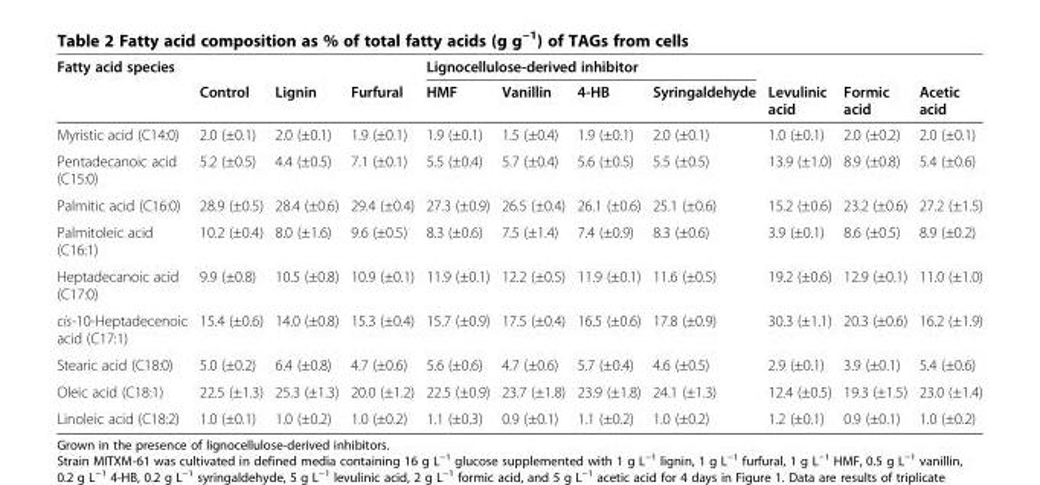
<table><thead><tr><td rowspan="2">Fatty acid species</td><td rowspan="2">Control</td><td rowspan="2">Lignin</td><td rowspan="2">Furfural</td><td colspan="4">Lignocellulose-derived inhibitor</td><td rowspan="2">Levulinic acid</td><td rowspan="2">Formic acid</td><td rowspan="2">Acetic acid</td></tr><tr><td>HMF</td><td>Vanillin</td><td>4-HB</td><td>Syringaldehyde</td></tr></thead><tbody><tr><td>Myristic acid (C14:0)</td><td>2.0 (±0.1)</td><td>2.0 (±0.1)</td><td>1.9 (±0.1)</td><td>1.9 (±0.1)</td><td>1.5 (±0.4)</td><td>1.9 (±0.1)</td><td>2.0 (±0.1)</td><td>1.0 (±0.1)</td><td>2.0 (±0.2)</td><td>2.0 (±0.1)</td></tr><tr><td>Pentadecanoic acid (C15:0)</td><td>5.2 (±0.5)</td><td>4.4 (±0.5)</td><td>7.1 (±0.1)</td><td>5.5 (±0.4)</td><td>5.7 (±0.4)</td><td>5.6 (±0.5)</td><td>5.5 (±0.5)</td><td>13.9 (±1.0)</td><td>8.9 (±0.8)</td><td>5.4 (±0.6)</td></tr><tr><td>Palmitic acid (C16:0)</td><td>28.9 (±0.5)</td><td>28.4 (±0.6)</td><td>29.4 (±0.4)</td><td>27.3 (±0.9)</td><td>26.5 (±0.4)</td><td>26.1 (±0.6)</td><td>25.1 (±0.6)</td><td>15.2 (±0.6)</td><td>23.2 (±0.6)</td><td>27.2 (±1.5)</td></tr><tr><td>Palmitoleic acid (C16:1)</td><td>10.2 (±0.4)</td><td>8.0 (±1.6)</td><td>9.6 (±0.5)</td><td>8.3 (±0.6)</td><td>7.5 (±1.4)</td><td>7.4 (±0.9)</td><td>8.3 (±0.6)</td><td>3.9 (±0.1)</td><td>8.6 (±0.5)</td><td>8.9 (±0.2)</td></tr><tr><td>Heptadecanoic acid (C17:0)</td><td>9.9 (±0.8)</td><td>10.5 (±0.8)</td><td>10.9 (±0.1)</td><td>11.9 (±0.1)</td><td>12.2 (±0.5)</td><td>11.9 (±0.1)</td><td>11.6 (±0.5)</td><td>19.2 (±0.6)</td><td>12.9 (±0.1)</td><td>11.0 (±1.0)</td></tr><tr><td>cis-10-Heptadecenoic acid (C17:1)</td><td>15.4 (±0.6)</td><td>14.0 (±0.8)</td><td>15.3 (±0.4)</td><td>15.7 (±0.9)</td><td>17.5 (±0.4)</td><td>16.5 (±0.6)</td><td>17.8 (±0.9)</td><td>30.3 (±1.1)</td><td>20.3 (±0.6)</td><td>16.2 (±1.9)</td></tr><tr><td>Stearic acid (C18:0)</td><td>5.0 (±0.2)</td><td>6.4 (±0.8)</td><td>4.7 (±0.6)</td><td>5.6 (±0.6)</td><td>4.7 (±0.6)</td><td>5.7 (±0.4)</td><td>4.6 (±0.5)</td><td>2.9 (±0.1)</td><td>3.9 (±0.1)</td><td>5.4 (±0.6)</td></tr><tr><td>Oleic acid (C18:1)</td><td>22.5 (±1.3)</td><td>25.3 (±1.3)</td><td>20.0 (±1.2)</td><td>22.5 (±0.9)</td><td>23.7 (±1.8)</td><td>23.9 (±1.8)</td><td>24.1 (±1.3)</td><td>12.4 (±0.5)</td><td>19.3 (±1.5)</td><td>23.0 (±1.4)</td></tr><tr><td>Linoleic acid (C18:2)</td><td>1.0 (±0.1)</td><td>1.0 (±0.2)</td><td>1.0 (±0.2)</td><td>1.1 (±0.3)</td><td>0.9 (±0.1)</td><td>1.1 (±0.2)</td><td>1.0 (±0.2)</td><td>1.2 (±0.1)</td><td>0.9 (±0.1)</td><td>1.0 (±0.2)</td></tr></tbody></table>